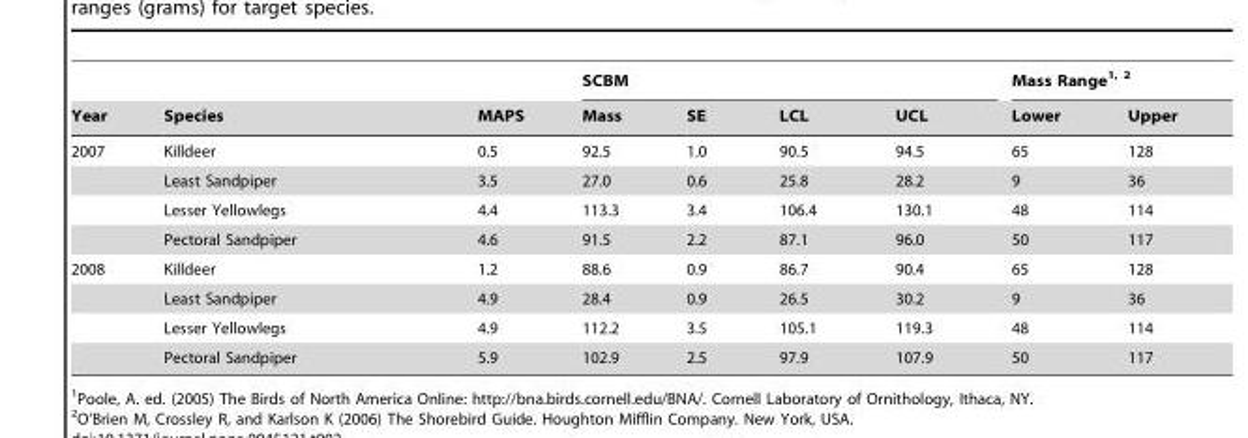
<table><thead><tr><td rowspan="2">Year</td><td rowspan="2">Species</td><td rowspan="2">MAPS</td><td colspan="4">SCBM</td><td colspan="2">Mass Range<sup>1, 2</sup></td></tr><tr><td>Mass</td><td>SE</td><td>LCL</td><td>UCL</td><td>Lower</td><td>Upper</td></tr></thead><tbody><tr><td rowspan="4">2007</td><td>Killdeer</td><td>0.5</td><td>92.5</td><td>1.0</td><td>90.5</td><td>94.5</td><td>65</td><td>128</td></tr><tr><td>Least Sandpiper</td><td>3.5</td><td>27.0</td><td>0.6</td><td>25.8</td><td>28.2</td><td>9</td><td>36</td></tr><tr><td>Lesser Yellowlegs</td><td>4.4</td><td>113.3</td><td>3.4</td><td>106.4</td><td>130.1</td><td>48</td><td>114</td></tr><tr><td>Pectoral Sandpiper</td><td>4.6</td><td>91.5</td><td>2.2</td><td>87.1</td><td>96.0</td><td>50</td><td>117</td></tr><tr><td rowspan="4">2008</td><td>Killdeer</td><td>1.2</td><td>88.6</td><td>0.9</td><td>86.7</td><td>90.4</td><td>65</td><td>128</td></tr><tr><td>Least Sandpiper</td><td>4.9</td><td>28.4</td><td>0.9</td><td>26.5</td><td>30.2</td><td>9</td><td>36</td></tr><tr><td>Lesser Yellowlegs</td><td>4.9</td><td>112.2</td><td>3.5</td><td>105.1</td><td>119.3</td><td>48</td><td>114</td></tr><tr><td>Pectoral Sandpiper</td><td>5.9</td><td>102.9</td><td>2.5</td><td>97.9</td><td>107.9</td><td>50</td><td>117</td></tr></tbody></table>